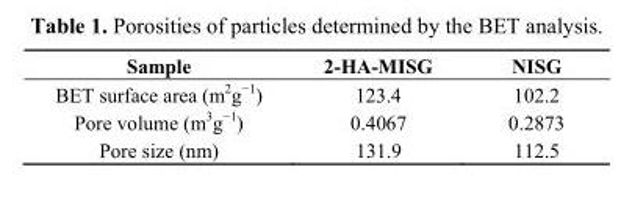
<table><thead><tr><td>Sample</td><td>2-HA-MISG</td><td>NISG</td></tr></thead><tbody><tr><td>BET surface area (m<sup>2</sup>g<sup>−1</sup>)</td><td>123.4</td><td>102.2</td></tr><tr><td>Pore volume (m<sup>3</sup>g<sup>−1</sup>)</td><td>0.4067</td><td>0.2873</td></tr><tr><td>Pore size (nm)</td><td>131.9</td><td>112.5</td></tr></tbody></table>